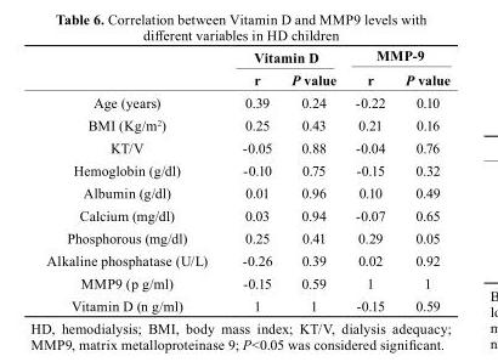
<table><thead><tr><td rowspan="2"></td><td colspan="2">Vitamin D</td><td colspan="2">MMP-9</td></tr><tr><td>r</td><td>P value</td><td>r</td><td>P value</td></tr></thead><tbody><tr><td>Age (years)</td><td>0.39</td><td>0.24</td><td>-0.22</td><td>0.10</td></tr><tr><td>BMI (Kg/m<sup>2</sup>)</td><td>0.25</td><td>0.43</td><td>0.21</td><td>0.16</td></tr><tr><td>KT/V</td><td>-0.05</td><td>0.88</td><td>-0.04</td><td>0.76</td></tr><tr><td>Hemoglobin (g/dl)</td><td>-0.10</td><td>0.75</td><td>-0.15</td><td>0.32</td></tr><tr><td>Albumin (g/dl)</td><td>0.01</td><td>0.96</td><td>0.10</td><td>0.49</td></tr><tr><td>Calcium (mg/dl)</td><td>0.03</td><td>0.94</td><td>-0.07</td><td>0.65</td></tr><tr><td>Phosphorous (mg/dl)</td><td>0.25</td><td>0.41</td><td>0.29</td><td>0.05</td></tr><tr><td>Alkaline phosphatase (U/L)</td><td>-0.26</td><td>0.39</td><td>0.02</td><td>0.92</td></tr><tr><td>MMP9 (p g/ml)</td><td>-0.15</td><td>0.59</td><td>1</td><td>1</td></tr><tr><td>Vitamin D (n g/ml)</td><td>1</td><td>1</td><td>-0.15</td><td>0.59</td></tr></tbody></table>